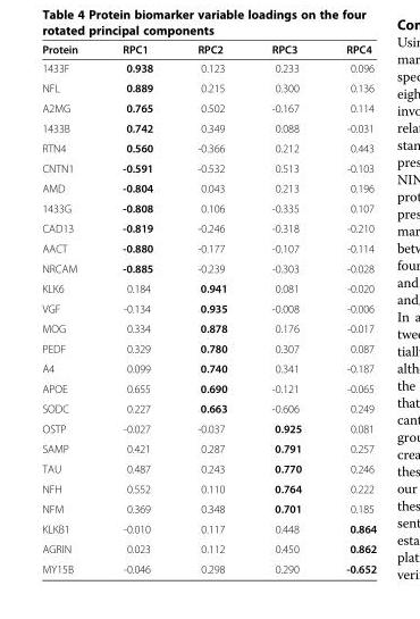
<table><thead><tr><td>Protein</td><td>RPC1</td><td>RPC2</td><td>RPC3</td><td>RPC4</td></tr></thead><tbody><tr><td>1433F</td><td>0.938</td><td>0.123</td><td>0.233</td><td>0.096</td></tr><tr><td>NFL</td><td>0.889</td><td>0.215</td><td>0.300</td><td>0.136</td></tr><tr><td>A2MG</td><td>0.765</td><td>0.502</td><td>-0.167</td><td>0.114</td></tr><tr><td>1433B</td><td>0.742</td><td>0.349</td><td>0.088</td><td>-0.031</td></tr><tr><td>RTN4</td><td>0.560</td><td>-0.366</td><td>0.212</td><td>0.443</td></tr><tr><td>CNTN1</td><td>-0.591</td><td>-0.532</td><td>0.513</td><td>-0.103</td></tr><tr><td>AMD</td><td>-0.804</td><td>0.043</td><td>0.213</td><td>0.196</td></tr><tr><td>1433G</td><td>-0.808</td><td>0.106</td><td>-0.335</td><td>0.107</td></tr><tr><td>CAD13</td><td>-0.819</td><td>-0.246</td><td>-0.318</td><td>-0.210</td></tr><tr><td>AACT</td><td>-0.880</td><td>-0.177</td><td>-0.107</td><td>-0.114</td></tr><tr><td>NRCAM</td><td>-0.885</td><td>-0.239</td><td>-0.303</td><td>-0.028</td></tr><tr><td>KLK6</td><td>0.184</td><td>0.941</td><td>0.081</td><td>-0.020</td></tr><tr><td>VGF</td><td>-0.134</td><td>0.935</td><td>-0.008</td><td>-0.006</td></tr><tr><td>MOG</td><td>0.334</td><td>0.878</td><td>0.176</td><td>-0.017</td></tr><tr><td>PEDF</td><td>0.329</td><td>0.780</td><td>0.307</td><td>0.087</td></tr><tr><td>A4</td><td>0.099</td><td>0.740</td><td>0.341</td><td>-0.187</td></tr><tr><td>APOE</td><td>0.655</td><td>0.690</td><td>-0.121</td><td>-0.065</td></tr><tr><td>SODC</td><td>0.227</td><td>0.663</td><td>-0.606</td><td>0.249</td></tr><tr><td>OSTP</td><td>-0.027</td><td>-0.037</td><td>0.925</td><td>0.081</td></tr><tr><td>SAMP</td><td>0.421</td><td>0.287</td><td>0.791</td><td>0.257</td></tr><tr><td>TAU</td><td>0.487</td><td>0.243</td><td>0.770</td><td>0.246</td></tr><tr><td>NFH</td><td>0.552</td><td>0.110</td><td>0.764</td><td>0.222</td></tr><tr><td>NFM</td><td>0.369</td><td>0.348</td><td>0.701</td><td>0.185</td></tr><tr><td>KLKB1</td><td>-0.010</td><td>0.117</td><td>0.448</td><td>0.864</td></tr><tr><td>AGRIN</td><td>0.023</td><td>0.112</td><td>0.450</td><td>0.862</td></tr><tr><td>MY15B</td><td>-0.046</td><td>0.298</td><td>0.290</td><td>-0.652</td></tr></tbody></table>